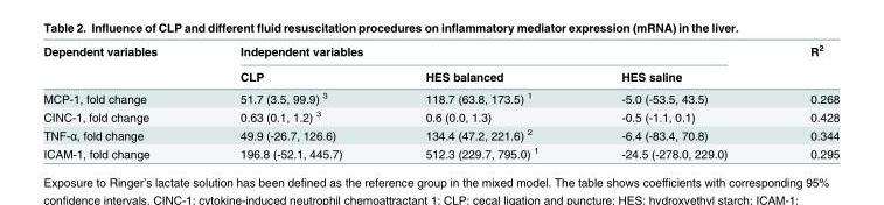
<table><thead><tr><td rowspan="2">Dependent variables</td><td colspan="3">Independent variables</td><td rowspan="2">R<sup>2</sup></td></tr><tr><td>CLP</td><td>HES balanced</td><td>HES saline</td></tr></thead><tbody><tr><td>MCP-1, fold change</td><td>51.7 (3.5, 99.9) <sup>3</sup></td><td>118.7 (63.8, 173.5) <sup>1</sup></td><td>-5.0 (-53.5, 43.5)</td><td>0.268</td></tr><tr><td>CINC-1, fold change</td><td>0.63 (0.1, 1.2) <sup>3</sup></td><td>0.6 (0.0, 1.3)</td><td>-0.5 (-1.1, 0.1)</td><td>0.428</td></tr><tr><td>TNF-α, fold change</td><td>49.9 (-26.7, 126.6)</td><td>134.4 (47.2, 221.6) <sup>2</sup></td><td>-6.4 (-83.4, 70.8)</td><td>0.344</td></tr><tr><td>ICAM-1, fold change</td><td>196.8 (-52.1, 445.7)</td><td>512.3 (229.7, 795.0) <sup>1</sup></td><td>-24.5 (-278.0, 229.0)</td><td>0.295</td></tr></tbody></table>